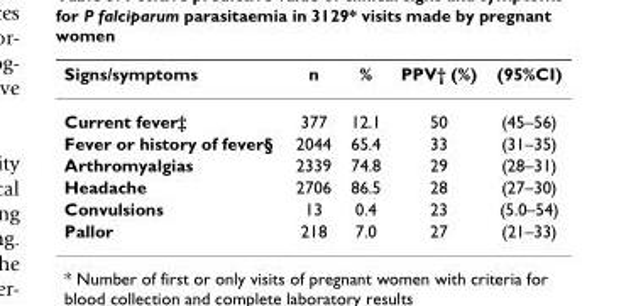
<table><thead><tr><td>Signs/symptoms</td><td>n</td><td>%</td><td>PPV† (%)</td><td>(95%CI)</td></tr></thead><tbody><tr><td>Current fever‡</td><td>377</td><td>12.1</td><td>50</td><td>(45–56)</td></tr><tr><td>Fever or history of fever§</td><td>2044</td><td>65.4</td><td>33</td><td>(31–35)</td></tr><tr><td>Arthromyalgias</td><td>2339</td><td>74.8</td><td>29</td><td>(28–31)</td></tr><tr><td>Headache</td><td>2706</td><td>86.5</td><td>28</td><td>(27–30)</td></tr><tr><td>Convulsions</td><td>13</td><td>0.4</td><td>23</td><td>(5.0–54)</td></tr><tr><td>Pallor</td><td>218</td><td>7.0</td><td>27</td><td>(21–33)</td></tr></tbody></table>